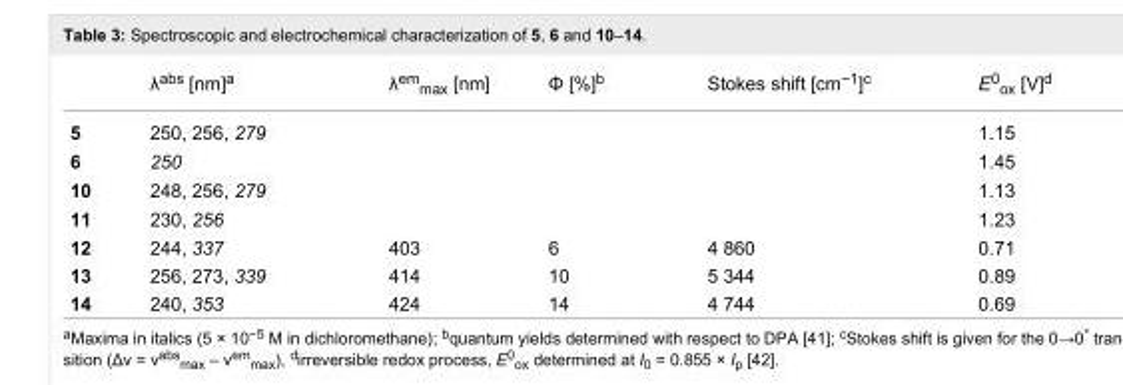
<table><thead><tr><td></td><td>λ<sup>abs</sup> [nm]<sup>a</sup></td><td>λ<sup>em</sup><sub>max</sub> [nm]</td><td>Φ [%]<sup>b</sup></td><td>Stokes shift [cm<sup>−1</sup>]<sup>c</sup></td><td>E<sup>0</sup><sub>ox</sub> [V]<sup>d</sup></td></tr></thead><tbody><tr><td>5</td><td>250, 256, 279</td><td></td><td></td><td></td><td>1.15</td></tr><tr><td>6</td><td>250</td><td></td><td></td><td></td><td>1.45</td></tr><tr><td>10</td><td>248, 256, 279</td><td></td><td></td><td></td><td>1.13</td></tr><tr><td>11</td><td>230, 256</td><td></td><td></td><td></td><td>1.23</td></tr><tr><td>12</td><td>244, 337</td><td>403</td><td>6</td><td>4 860</td><td>0.71</td></tr><tr><td>13</td><td>256, 273, 339</td><td>414</td><td>10</td><td>5 344</td><td>0.89</td></tr><tr><td>14</td><td>240, 353</td><td>424</td><td>14</td><td>4 744</td><td>0.69</td></tr></tbody></table>